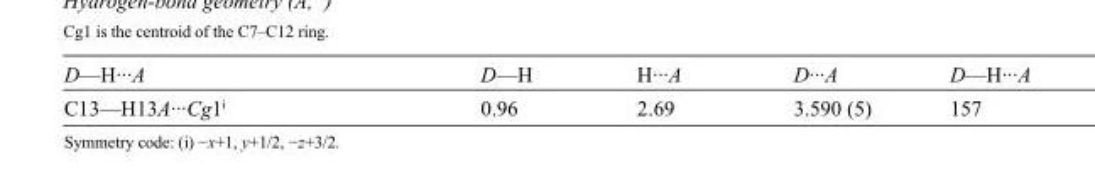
<table><tbody><tr><td>D—H···A</td><td>D—H</td><td>H···A</td><td>D···A</td><td>D—H···A</td></tr><tr><td>C13—H13A···Cg1<sup>i</sup></td><td>0.96</td><td>2.69</td><td>3.590 (5)</td><td>157</td></tr></tbody></table>